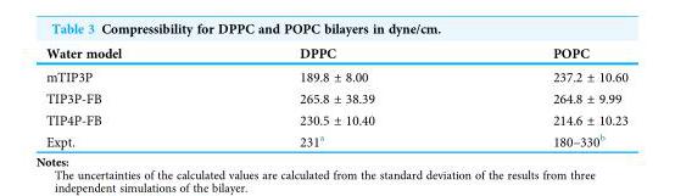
<table><thead><tr><td>Water model</td><td>DPPC</td><td>POPC</td></tr></thead><tbody><tr><td>mTIP3P</td><td>189.8 ± 8.00</td><td>237.2 ± 10.60</td></tr><tr><td>TIP3P-FB</td><td>265.8 ± 38.39</td><td>264.8 ± 9.99</td></tr><tr><td>TIP4P-FB</td><td>230.5 ± 10.40</td><td>214.6 ± 10.23</td></tr><tr><td>Expt.</td><td>231<sup>a</sup></td><td>180–330<sup>b</sup></td></tr></tbody></table>